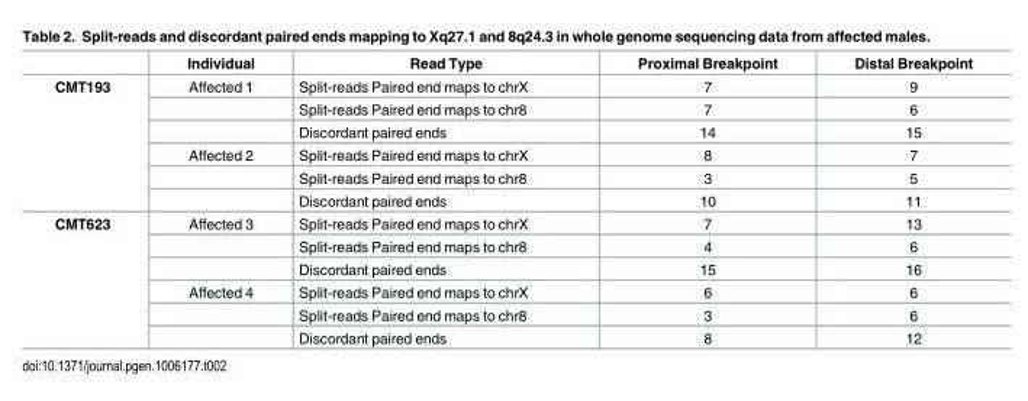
<table><thead><tr><td></td><td>Individual</td><td>Read Type</td><td>Proximal Breakpoint</td><td>Distal Breakpoint</td></tr></thead><tbody><tr><td rowspan="6">CMT193</td><td>Affected 1</td><td>Split-reads Paired end maps to chrX</td><td>7</td><td>9</td></tr><tr><td></td><td>Split-reads Paired end maps to chr8</td><td>7</td><td>6</td></tr><tr><td></td><td>Discordant paired ends</td><td>14</td><td>15</td></tr><tr><td>Affected 2</td><td>Split-reads Paired end maps to chrX</td><td>8</td><td>7</td></tr><tr><td></td><td>Split-reads Paired end maps to chr8</td><td>3</td><td>5</td></tr><tr><td></td><td>Discordant paired ends</td><td>10</td><td>11</td></tr><tr><td rowspan="6">CMT623</td><td>Affected 3</td><td>Split-reads Paired end maps to chrX</td><td>7</td><td>13</td></tr><tr><td></td><td>Split-reads Paired end maps to chr8</td><td>4</td><td>6</td></tr><tr><td></td><td>Discordant paired ends</td><td>15</td><td>16</td></tr><tr><td>Affected 4</td><td>Split-reads Paired end maps to chrX</td><td>6</td><td>6</td></tr><tr><td></td><td>Split-reads Paired end maps to chr8</td><td>3</td><td>6</td></tr><tr><td></td><td>Discordant paired ends</td><td>8</td><td>12</td></tr></tbody></table>